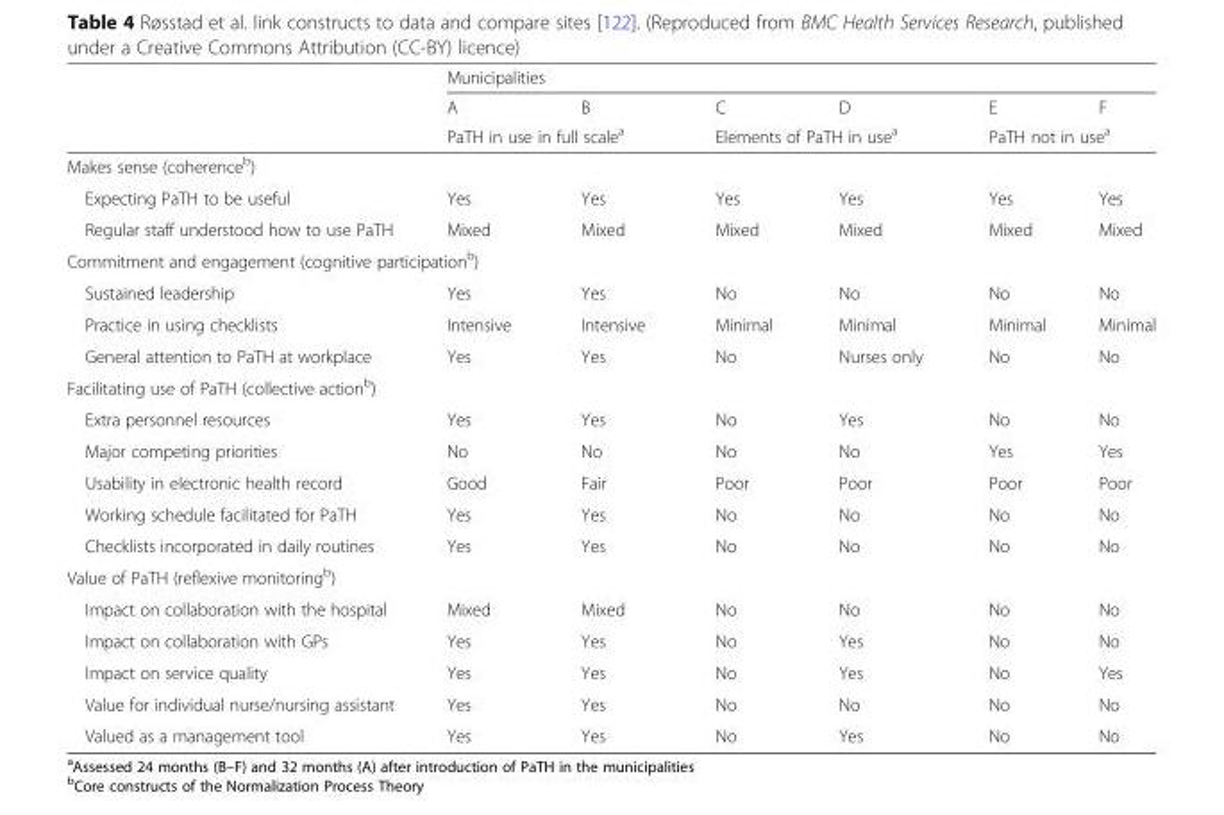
<table><thead><tr><td rowspan="3"></td><td colspan="6">Municipalities</td></tr><tr><td>A</td><td>B</td><td>C</td><td>D</td><td>E</td><td>F</td></tr><tr><td colspan="2">PaTH in use in full scale<sup>a</sup></td><td colspan="2">Elements of PaTH in use<sup>a</sup></td><td colspan="2">PaTH not in use<sup>a</sup></td></tr></thead><tbody><tr><td colspan="7">Makes sense (coherence<sup>b</sup>)</td></tr><tr><td>Expecting PaTH to be useful</td><td>Yes</td><td>Yes</td><td>Yes</td><td>Yes</td><td>Yes</td><td>Yes</td></tr><tr><td>Regular staff understood how to use PaTH</td><td>Mixed</td><td>Mixed</td><td>Mixed</td><td>Mixed</td><td>Mixed</td><td>Mixed</td></tr><tr><td colspan="7">Commitment and engagement (cognitive participation<sup>b</sup>)</td></tr><tr><td>Sustained leadership</td><td>Yes</td><td>Yes</td><td>No</td><td>No</td><td>No</td><td>No</td></tr><tr><td>Practice in using checklists</td><td>Intensive</td><td>Intensive</td><td>Minimal</td><td>Minimal</td><td>Minimal</td><td>Minimal</td></tr><tr><td>General attention to PaTH at workplace</td><td>Yes</td><td>Yes</td><td>No</td><td>Nurses only</td><td>No</td><td>No</td></tr><tr><td colspan="7">Facilitating use of PaTH (collective action<sup>b</sup>)</td></tr><tr><td>Extra personnel resources</td><td>Yes</td><td>Yes</td><td>No</td><td>Yes</td><td>No</td><td>No</td></tr><tr><td>Major competing priorities</td><td>No</td><td>No</td><td>No</td><td>No</td><td>Yes</td><td>Yes</td></tr><tr><td>Usability in electronic health record</td><td>Good</td><td>Fair</td><td>Poor</td><td>Poor</td><td>Poor</td><td>Poor</td></tr><tr><td>Working schedule facilitated for PaTH</td><td>Yes</td><td>Yes</td><td>No</td><td>No</td><td>No</td><td>No</td></tr><tr><td>Checklists incorporated in daily routines</td><td>Yes</td><td>Yes</td><td>No</td><td>No</td><td>No</td><td>No</td></tr><tr><td colspan="7">Value of PaTH (reflexive monitoring<sup>b</sup>)</td></tr><tr><td>Impact on collaboration with the hospital</td><td>Mixed</td><td>Mixed</td><td>No</td><td>No</td><td>No</td><td>No</td></tr><tr><td>Impact on collaboration with GPs</td><td>Yes</td><td>Yes</td><td>No</td><td>Yes</td><td>No</td><td>No</td></tr><tr><td>Impact on service quality</td><td>Yes</td><td>Yes</td><td>No</td><td>Yes</td><td>No</td><td>Yes</td></tr><tr><td>Value for individual nurse/nursing assistant</td><td>Yes</td><td>Yes</td><td>No</td><td>No</td><td>No</td><td>No</td></tr><tr><td>Valued as a management tool</td><td>Yes</td><td>Yes</td><td>No</td><td>Yes</td><td>No</td><td>No</td></tr></tbody></table>